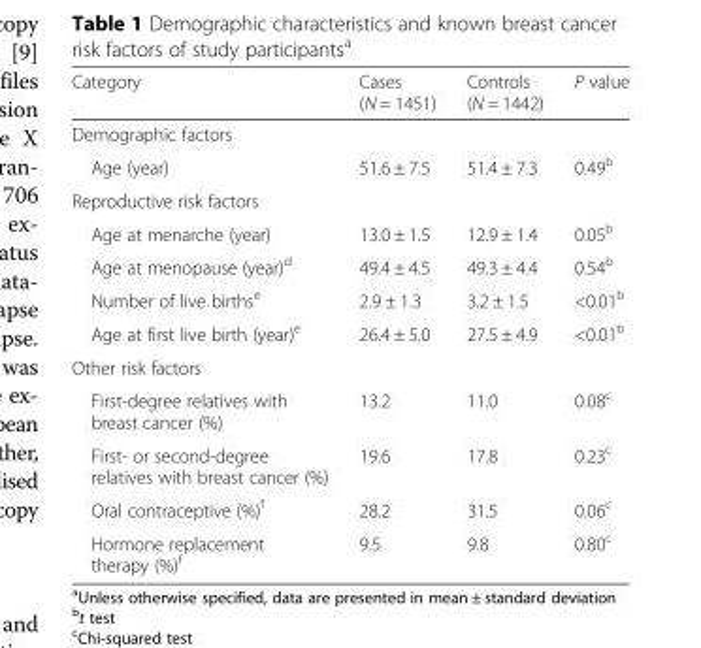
<table><thead><tr><td>Category</td><td>Cases (N = 1451)</td><td>Controls (N = 1442)</td><td>P value</td></tr></thead><tbody><tr><td colspan="4">Demographic factors</td></tr><tr><td>Age (year)</td><td>51.6 ± 7.5</td><td>51.4 ± 7.3</td><td>0.49<sup>b</sup></td></tr><tr><td colspan="4">Reproductive risk factors</td></tr><tr><td>Age at menarche (year)</td><td>13.0 ± 1.5</td><td>12.9 ± 1.4</td><td>0.05<sup>b</sup></td></tr><tr><td>Age at menopause (year)<sup>d</sup></td><td>49.4 ± 4.5</td><td>49.3 ± 4.4</td><td>0.54<sup>b</sup></td></tr><tr><td>Number of live births<sup>e</sup></td><td>2.9 ± 1.3</td><td>3.2 ± 1.5</td><td>&lt;0.01<sup>b</sup></td></tr><tr><td>Age at first live birth (year)<sup>e</sup></td><td>26.4 ± 5.0</td><td>27.5 ± 4.9</td><td>&lt;0.01<sup>b</sup></td></tr><tr><td colspan="4">Other risk factors</td></tr><tr><td>First-degree relatives with breast cancer (%)</td><td>13.2</td><td>11.0</td><td>0.08<sup>c</sup></td></tr><tr><td>First- or second-degree relatives with breast cancer (%)</td><td>19.6</td><td>17.8</td><td>0.23<sup>c</sup></td></tr><tr><td>Oral contraceptive (%)<sup>f</sup></td><td>28.2</td><td>31.5</td><td>0.06<sup>c</sup></td></tr><tr><td>Hormone replacement therapy (%)<sup>f</sup></td><td>9.5</td><td>9.8</td><td>0.80<sup>c</sup></td></tr></tbody></table>